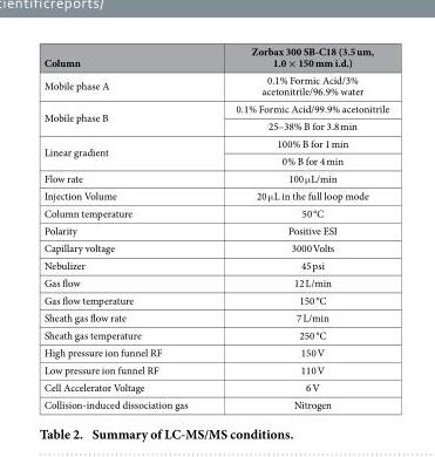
<table><thead><tr><td>Column</td><td>Zorbax 300 SB-C18 (3.5 um, 1.0 × 150 mm i.d.)</td></tr></thead><tbody><tr><td>Mobile phase A</td><td>0.1% Formic Acid/3% acetonitrile/96.9% water</td></tr><tr><td rowspan="2">Mobile phase B</td><td>0.1% Formic Acid/99.9% acetonitrile</td></tr><tr><td>25–38% B for 3.8 min</td></tr><tr><td rowspan="2">Linear gradient</td><td>100% B for 1 min</td></tr><tr><td>0% B for 4 min</td></tr><tr><td>Flow rate</td><td>100 μ L/min</td></tr><tr><td>Injection Volume</td><td>20 μ L in the full loop mode</td></tr><tr><td>Column temperature</td><td>50 °C</td></tr><tr><td>Polarity</td><td>Positive ESI</td></tr><tr><td>Capillary voltage</td><td>3000 Volts</td></tr><tr><td>Nebulizer</td><td>45 psi</td></tr><tr><td>Gas flow</td><td>12 L/min</td></tr><tr><td>Gas flow temperature</td><td>150 °C</td></tr><tr><td>Sheath gas flow rate</td><td>7 L/min</td></tr><tr><td>Sheath gas temperature</td><td>250 °C</td></tr><tr><td>High pressure ion funnel RF</td><td>150 V</td></tr><tr><td>Low pressure ion funnel RF</td><td>110 V</td></tr><tr><td>Cell Accelerator Voltage</td><td>6 V</td></tr><tr><td>Collision-induced dissociation gas</td><td>Nitrogen</td></tr></tbody></table>